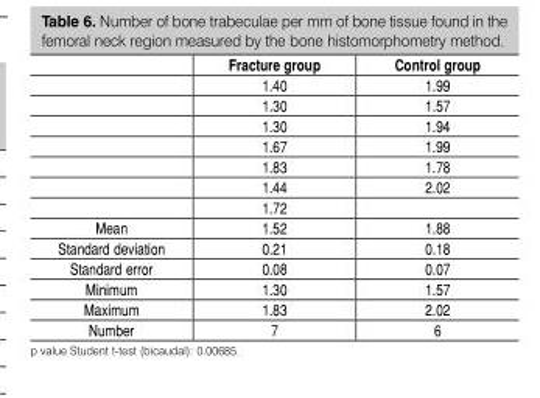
<table><thead><tr><td></td><td>Fracture group</td><td>Control group</td></tr></thead><tbody><tr><td></td><td>1.40</td><td>1.99</td></tr><tr><td></td><td>1.30</td><td>1.57</td></tr><tr><td></td><td>1.30</td><td>1.94</td></tr><tr><td></td><td>1.67</td><td>1.99</td></tr><tr><td></td><td>1.83</td><td>1.78</td></tr><tr><td></td><td>1.44</td><td>2.02</td></tr><tr><td></td><td>1.72</td><td></td></tr><tr><td>Mean</td><td>1.52</td><td>1.88</td></tr><tr><td>Standard deviation</td><td>0.21</td><td>0.18</td></tr><tr><td>Standard error</td><td>0.08</td><td>0.07</td></tr><tr><td>Minimum</td><td>1.30</td><td>1.57</td></tr><tr><td>Maximum</td><td>1.83</td><td>2.02</td></tr><tr><td>Number</td><td>7</td><td>6</td></tr></tbody></table>